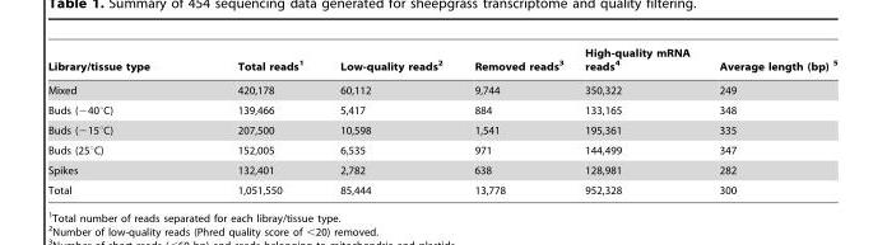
<table><thead><tr><td>Library/tissue type</td><td>Total reads<sup>1</sup></td><td>Low-quality reads<sup>2</sup></td><td>Removed reads<sup>3</sup></td><td>High-quality mRNA reads<sup>4</sup></td><td>Average length (bp) 5</td></tr></thead><tbody><tr><td>Mixed</td><td>420,178</td><td>60,112</td><td>9,744</td><td>350,322</td><td>249</td></tr><tr><td>Buds (−40°C)</td><td>139,466</td><td>5,417</td><td>884</td><td>133,165</td><td>348</td></tr><tr><td>Buds (−15°C)</td><td>207,500</td><td>10,598</td><td>1,541</td><td>195,361</td><td>335</td></tr><tr><td>Buds (25°C)</td><td>152,005</td><td>6,535</td><td>971</td><td>144,499</td><td>347</td></tr><tr><td>Spikes</td><td>132,401</td><td>2,782</td><td>638</td><td>128,981</td><td>282</td></tr><tr><td>Total</td><td>1,051,550</td><td>85,444</td><td>13,778</td><td>952,328</td><td>300</td></tr></tbody></table>